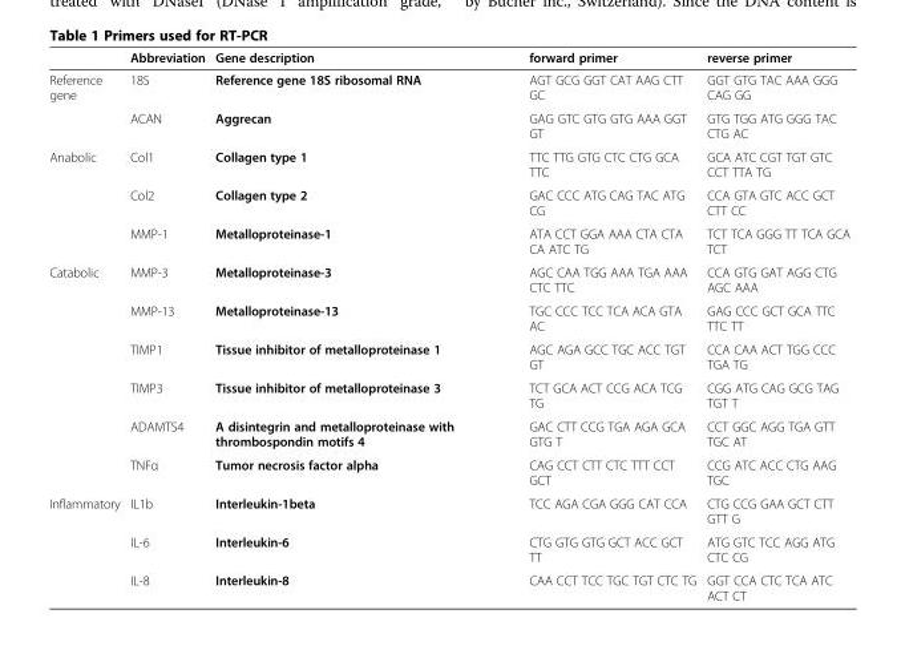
<table><thead><tr><td></td><td>Abbreviation</td><td>Gene description</td><td>forward primer</td><td>reverse primer</td></tr></thead><tbody><tr><td rowspan="2">Reference gene</td><td>18S</td><td>Reference gene 18S ribosomal RNA</td><td>AGT GCG GGT CAT AAG CTT GC</td><td>GGT GTG TAC AAA GGG CAG GG</td></tr><tr><td>ACAN</td><td>Aggrecan</td><td>GAG GTC GTG GTG AAA GGT GT</td><td>GTG TGG ATG GGG TAC CTG AC</td></tr><tr><td rowspan="3">Anabolic</td><td>Col1</td><td>Collagen type 1</td><td>TTC TTG GTG CTC CTG GCA TTC</td><td>GCA ATC CGT TGT GTC CCT TTA TG</td></tr><tr><td>Col2</td><td>Collagen type 2</td><td>GAC CCC ATG CAG TAC ATG CG</td><td>CCA GTA GTC ACC GCT CTT CC</td></tr><tr><td>MMP-1</td><td>Metalloproteinase-1</td><td>ATA CCT GGA AAA CTA CTA CA ATC TG</td><td>TCT TCA GGG TT TCA GCA TCT</td></tr><tr><td rowspan="6">Catabolic</td><td>MMP-3</td><td>Metalloproteinase-3</td><td>AGC CAA TGG AAA TGA AAA CTC TTC</td><td>CCA GTG GAT AGG CTG AGC AAA</td></tr><tr><td>MMP-13</td><td>Metalloproteinase-13</td><td>TGC CCC TCC TCA ACA GTA AC</td><td>GAG CCC GCT GCA TTC TTC TT</td></tr><tr><td>TIMP1</td><td>Tissue inhibitor of metalloproteinase 1</td><td>AGC AGA GCC TGC ACC TGT GT</td><td>CCA CAA ACT TGG CCC TGA TG</td></tr><tr><td>TIMP3</td><td>Tissue inhibitor of metalloproteinase 3</td><td>TCT GCA ACT CCG ACA TCG TG</td><td>CGG ATG CAG GCG TAG TGT T</td></tr><tr><td>ADAMTS4</td><td>A disintegrin and metalloproteinase with thrombospondin motifs 4</td><td>GAC CTT CCG TGA AGA GCA GTG T</td><td>CCT GGC AGG TGA GTT TGC AT</td></tr><tr><td>TNFα</td><td>Tumor necrosis factor alpha</td><td>CAG CCT CTT CTC TTT CCT GCT</td><td>CCG ATC ACC CTG AAG TGC</td></tr><tr><td rowspan="3">Inflammatory</td><td>IL1b</td><td>Interleukin-1beta</td><td>TCC AGA CGA GGG CAT CCA</td><td>CTG CCG GAA GCT CTT GTT G</td></tr><tr><td>IL-6</td><td>Interleukin-6</td><td>CTG GTG GTG GCT ACC GCT TT</td><td>ATG GTC TCC AGG ATG CTC CG</td></tr><tr><td>IL-8</td><td>Interleukin-8</td><td>CAA CCT TCC TGC TGT CTC TG</td><td>GGT CCA CTC TCA ATC ACT CT</td></tr></tbody></table>